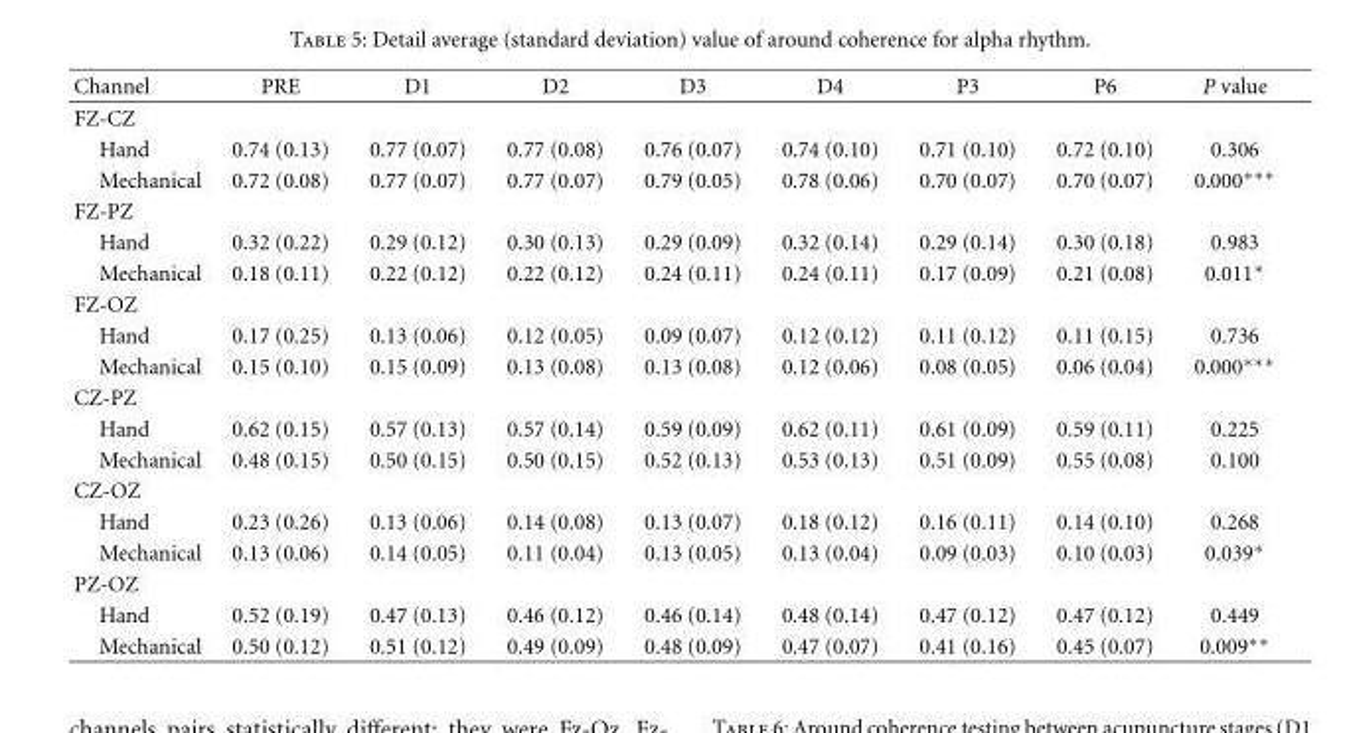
<table><thead><tr><td>Channel</td><td>PRE</td><td>D1</td><td>D2</td><td>D3</td><td>D4</td><td>P3</td><td>P6</td><td>P value</td></tr></thead><tbody><tr><td colspan="9">FZ-CZ</td></tr><tr><td>Hand</td><td>0.74 (0.13)</td><td>0.77 (0.07)</td><td>0.77 (0.08)</td><td>0.76 (0.07)</td><td>0.74 (0.10)</td><td>0.71 (0.10)</td><td>0.72 (0.10)</td><td>0.306</td></tr><tr><td>Mechanical</td><td>0.72 (0.08)</td><td>0.77 (0.07)</td><td>0.77 (0.07)</td><td>0.79 (0.05)</td><td>0.78 (0.06)</td><td>0.70 (0.07)</td><td>0.70 (0.07)</td><td>0.000∗∗∗</td></tr><tr><td colspan="9">FZ-PZ</td></tr><tr><td>Hand</td><td>0.32 (0.22)</td><td>0.29 (0.12)</td><td>0.30 (0.13)</td><td>0.29 (0.09)</td><td>0.32 (0.14)</td><td>0.29 (0.14)</td><td>0.30 (0.18)</td><td>0.983</td></tr><tr><td>Mechanical</td><td>0.18 (0.11)</td><td>0.22 (0.12)</td><td>0.22 (0.12)</td><td>0.24 (0.11)</td><td>0.24 (0.11)</td><td>0.17 (0.09)</td><td>0.21 (0.08)</td><td>0.011∗</td></tr><tr><td colspan="9">FZ-OZ</td></tr><tr><td>Hand</td><td>0.17 (0.25)</td><td>0.13 (0.06)</td><td>0.12 (0.05)</td><td>0.09 (0.07)</td><td>0.12 (0.12)</td><td>0.11 (0.12)</td><td>0.11 (0.15)</td><td>0.736</td></tr><tr><td>Mechanical</td><td>0.15 (0.10)</td><td>0.15 (0.09)</td><td>0.13 (0.08)</td><td>0.13 (0.08)</td><td>0.12 (0.06)</td><td>0.08 (0.05)</td><td>0.06 (0.04)</td><td>0.000∗∗∗</td></tr><tr><td colspan="9">CZ-PZ</td></tr><tr><td>Hand</td><td>0.62 (0.15)</td><td>0.57 (0.13)</td><td>0.57 (0.14)</td><td>0.59 (0.09)</td><td>0.62 (0.11)</td><td>0.61 (0.09)</td><td>0.59 (0.11)</td><td>0.225</td></tr><tr><td>Mechanical</td><td>0.48 (0.15)</td><td>0.50 (0.15)</td><td>0.50 (0.15)</td><td>0.52 (0.13)</td><td>0.53 (0.13)</td><td>0.51 (0.09)</td><td>0.55 (0.08)</td><td>0.100</td></tr><tr><td colspan="9">CZ-OZ</td></tr><tr><td>Hand</td><td>0.23 (0.26)</td><td>0.13 (0.06)</td><td>0.14 (0.08)</td><td>0.13 (0.07)</td><td>0.18 (0.12)</td><td>0.16 (0.11)</td><td>0.14 (0.10)</td><td>0.268</td></tr><tr><td>Mechanical</td><td>0.13 (0.06)</td><td>0.14 (0.05)</td><td>0.11 (0.04)</td><td>0.13 (0.05)</td><td>0.13 (0.04)</td><td>0.09 (0.03)</td><td>0.10 (0.03)</td><td>0.039∗</td></tr><tr><td colspan="9">PZ-OZ</td></tr><tr><td>Hand</td><td>0.52 (0.19)</td><td>0.47 (0.13)</td><td>0.46 (0.12)</td><td>0.46 (0.14)</td><td>0.48 (0.14)</td><td>0.47 (0.12)</td><td>0.47 (0.12)</td><td>0.449</td></tr><tr><td>Mechanical</td><td>0.50 (0.12)</td><td>0.51 (0.12)</td><td>0.49 (0.09)</td><td>0.48 (0.09)</td><td>0.47 (0.07)</td><td>0.41 (0.16)</td><td>0.45 (0.07)</td><td>0.009∗∗</td></tr></tbody></table>